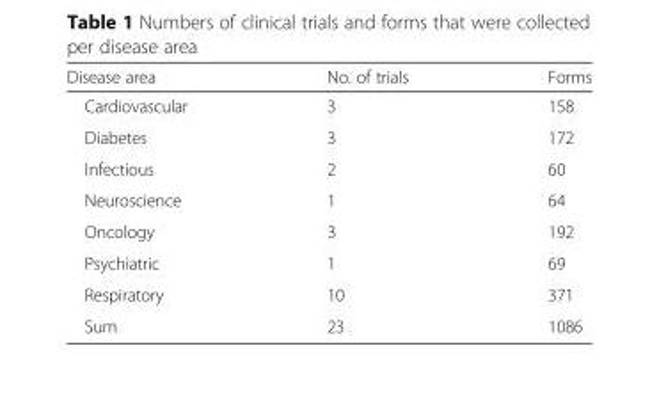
<table><thead><tr><td>Disease area</td><td>No. of trials</td><td>Forms</td></tr></thead><tbody><tr><td>Cardiovascular</td><td>3</td><td>158</td></tr><tr><td>Diabetes</td><td>3</td><td>172</td></tr><tr><td>Infectious</td><td>2</td><td>60</td></tr><tr><td>Neuroscience</td><td>1</td><td>64</td></tr><tr><td>Oncology</td><td>3</td><td>192</td></tr><tr><td>Psychiatric</td><td>1</td><td>69</td></tr><tr><td>Respiratory</td><td>10</td><td>371</td></tr><tr><td>Sum</td><td>23</td><td>1086</td></tr></tbody></table>